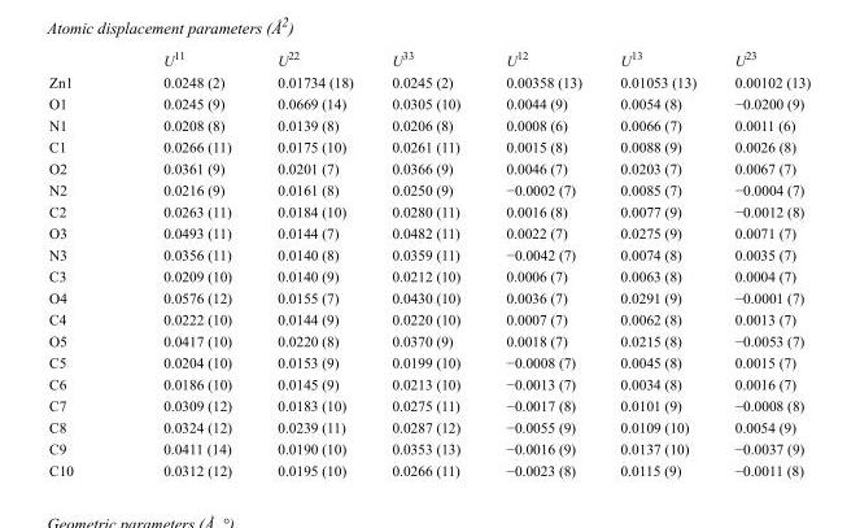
<table><thead><tr><td></td><td>U<sup>11</sup></td><td>U<sup>22</sup></td><td>U<sup>33</sup></td><td>U<sup>12</sup></td><td>U<sup>13</sup></td><td>U<sup>23</sup></td></tr></thead><tbody><tr><td>Zn1</td><td>0.0248 (2)</td><td>0.01734 (18)</td><td>0.0245 (2)</td><td>0.00358 (13)</td><td>0.01053 (13)</td><td>0.00102 (13)</td></tr><tr><td>O1</td><td>0.0245 (9)</td><td>0.0669 (14)</td><td>0.0305 (10)</td><td>0.0044 (9)</td><td>0.0054 (8)</td><td>−0.0200 (9)</td></tr><tr><td>N1</td><td>0.0208 (8)</td><td>0.0139 (8)</td><td>0.0206 (8)</td><td>0.0008 (6)</td><td>0.0066 (7)</td><td>0.0011 (6)</td></tr><tr><td>C1</td><td>0.0266 (11)</td><td>0.0175 (10)</td><td>0.0261 (11)</td><td>0.0015 (8)</td><td>0.0088 (9)</td><td>0.0026 (8)</td></tr><tr><td>O2</td><td>0.0361 (9)</td><td>0.0201 (7)</td><td>0.0366 (9)</td><td>0.0046 (7)</td><td>0.0203 (7)</td><td>0.0067 (7)</td></tr><tr><td>N2</td><td>0.0216 (9)</td><td>0.0161 (8)</td><td>0.0250 (9)</td><td>−0.0002 (7)</td><td>0.0085 (7)</td><td>−0.0004 (7)</td></tr><tr><td>C2</td><td>0.0263 (11)</td><td>0.0184 (10)</td><td>0.0280 (11)</td><td>0.0016 (8)</td><td>0.0077 (9)</td><td>−0.0012 (8)</td></tr><tr><td>O3</td><td>0.0493 (11)</td><td>0.0144 (7)</td><td>0.0482 (11)</td><td>0.0022 (7)</td><td>0.0275 (9)</td><td>0.0071 (7)</td></tr><tr><td>N3</td><td>0.0356 (11)</td><td>0.0140 (8)</td><td>0.0359 (11)</td><td>−0.0042 (7)</td><td>0.0074 (8)</td><td>0.0035 (7)</td></tr><tr><td>C3</td><td>0.0209 (10)</td><td>0.0140 (9)</td><td>0.0212 (10)</td><td>0.0006 (7)</td><td>0.0063 (8)</td><td>0.0004 (7)</td></tr><tr><td>O4</td><td>0.0576 (12)</td><td>0.0155 (7)</td><td>0.0430 (10)</td><td>0.0036 (7)</td><td>0.0291 (9)</td><td>−0.0001 (7)</td></tr><tr><td>C4</td><td>0.0222 (10)</td><td>0.0144 (9)</td><td>0.0220 (10)</td><td>0.0007 (7)</td><td>0.0062 (8)</td><td>0.0013 (7)</td></tr><tr><td>O5</td><td>0.0417 (10)</td><td>0.0220 (8)</td><td>0.0370 (9)</td><td>0.0018 (7)</td><td>0.0215 (8)</td><td>−0.0053 (7)</td></tr><tr><td>C5</td><td>0.0204 (10)</td><td>0.0153 (9)</td><td>0.0199 (10)</td><td>−0.0008 (7)</td><td>0.0045 (8)</td><td>0.0015 (7)</td></tr><tr><td>C6</td><td>0.0186 (10)</td><td>0.0145 (9)</td><td>0.0213 (10)</td><td>−0.0013 (7)</td><td>0.0034 (8)</td><td>0.0016 (7)</td></tr><tr><td>C7</td><td>0.0309 (12)</td><td>0.0183 (10)</td><td>0.0275 (11)</td><td>−0.0017 (8)</td><td>0.0101 (9)</td><td>−0.0008 (8)</td></tr><tr><td>C8</td><td>0.0324 (12)</td><td>0.0239 (11)</td><td>0.0287 (12)</td><td>−0.0055 (9)</td><td>0.0109 (10)</td><td>0.0054 (9)</td></tr><tr><td>C9</td><td>0.0411 (14)</td><td>0.0190 (10)</td><td>0.0353 (13)</td><td>−0.0016 (9)</td><td>0.0137 (10)</td><td>−0.0037 (9)</td></tr><tr><td>C10</td><td>0.0312 (12)</td><td>0.0195 (10)</td><td>0.0266 (11)</td><td>−0.0023 (8)</td><td>0.0115 (9)</td><td>−0.0011 (8)</td></tr></tbody></table>